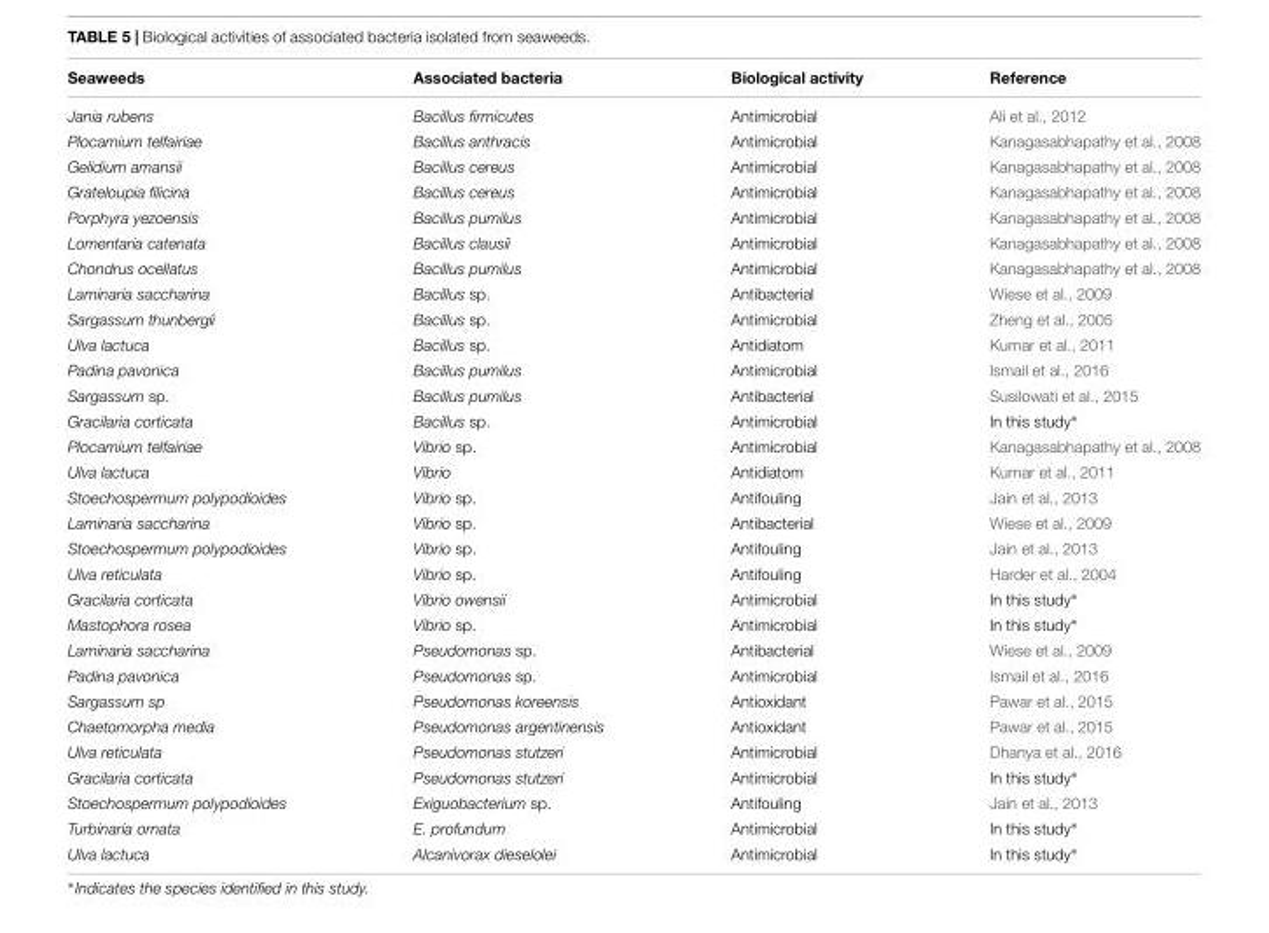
<table><thead><tr><td>Seaweeds</td><td>Associated bacteria</td><td>Biological activity</td><td>Reference</td></tr></thead><tbody><tr><td>Jania rubens</td><td>Bacillus firmicutes</td><td>Antimicrobial</td><td>Ali et al., 2012</td></tr><tr><td>Plocamium telfairiae</td><td>Bacillus anthracis</td><td>Antimicrobial</td><td>Kanagasabhapathy et al., 2008</td></tr><tr><td>Gelidium amansii</td><td>Bacillus cereus</td><td>Antimicrobial</td><td>Kanagasabhapathy et al., 2008</td></tr><tr><td>Grateloupia filicina</td><td>Bacillus cereus</td><td>Antimicrobial</td><td>Kanagasabhapathy et al., 2008</td></tr><tr><td>Porphyra yezoensis</td><td>Bacillus pumilus</td><td>Antimicrobial</td><td>Kanagasabhapathy et al., 2008</td></tr><tr><td>Lomentaria catenata</td><td>Bacillus clausii</td><td>Antimicrobial</td><td>Kanagasabhapathy et al., 2008</td></tr><tr><td>Chondrus ocellatus</td><td>Bacillus pumilus</td><td>Antimicrobial</td><td>Kanagasabhapathy et al., 2008</td></tr><tr><td>Laminaria saccharina</td><td>Bacillus sp.</td><td>Antibacterial</td><td>Wiese et al., 2009</td></tr><tr><td>Sargassum thunbergii</td><td>Bacillus sp.</td><td>Antimicrobial</td><td>Zheng et al., 2005</td></tr><tr><td>Ulva lactuca</td><td>Bacillus sp.</td><td>Antidiatom</td><td>Kumar et al., 2011</td></tr><tr><td>Padina pavonica</td><td>Bacillus pumilus</td><td>Antimicrobial</td><td>Ismail et al., 2016</td></tr><tr><td>Sargassum sp.</td><td>Bacillus pumilus</td><td>Antibacterial</td><td>Susilowati et al., 2015</td></tr><tr><td>Gracilaria corticata</td><td>Bacillus sp.</td><td>Antimicrobial</td><td>In this study∗</td></tr><tr><td>Plocamium telfairiae</td><td>Vibrio sp.</td><td>Antimicrobial</td><td>Kanagasabhapathy et al., 2008</td></tr><tr><td>Ulva lactuca</td><td>Vibrio</td><td>Antidiatom</td><td>Kumar et al., 2011</td></tr><tr><td>Stoechospermum polypodioides</td><td>Vibrio sp.</td><td>Antifouling</td><td>Jain et al., 2013</td></tr><tr><td>Laminaria saccharina</td><td>Vibrio sp.</td><td>Antibacterial</td><td>Wiese et al., 2009</td></tr><tr><td>Stoechospermum polypodioides</td><td>Vibrio sp.</td><td>Antifouling</td><td>Jain et al., 2013</td></tr><tr><td>Ulva reticulata</td><td>Vibrio sp.</td><td>Antifouling</td><td>Harder et al., 2004</td></tr><tr><td>Gracilaria corticata</td><td>Vibrio owensii</td><td>Antimicrobial</td><td>In this study∗</td></tr><tr><td>Mastophora rosea</td><td>Vibrio sp.</td><td>Antimicrobial</td><td>In this study∗</td></tr><tr><td>Laminaria saccharina</td><td>Pseudomonas sp.</td><td>Antibacterial</td><td>Wiese et al., 2009</td></tr><tr><td>Padina pavonica</td><td>Pseudomonas sp.</td><td>Antimicrobial</td><td>Ismail et al., 2016</td></tr><tr><td>Sargassum sp</td><td>Pseudomonas koreensis</td><td>Antioxidant</td><td>Pawar et al., 2015</td></tr><tr><td>Chaetomorpha media</td><td>Pseudomonas argentinensis</td><td>Antioxidant</td><td>Pawar et al., 2015</td></tr><tr><td>Ulva reticulata</td><td>Pseudomonas stutzeri</td><td>Antimicrobial</td><td>Dhanya et al., 2016</td></tr><tr><td>Gracilaria corticata</td><td>Pseudomonas stutzeri</td><td>Antimicrobial</td><td>In this study∗</td></tr><tr><td>Stoechospermum polypodioides</td><td>Exiguobacterium sp.</td><td>Antifouling</td><td>Jain et al., 2013</td></tr><tr><td>Turbinaria ornata</td><td>E. profundum</td><td>Antimicrobial</td><td>In this study∗</td></tr><tr><td>Ulva lactuca</td><td>Alcanivorax dieselolei</td><td>Antimicrobial</td><td>In this study∗</td></tr></tbody></table>